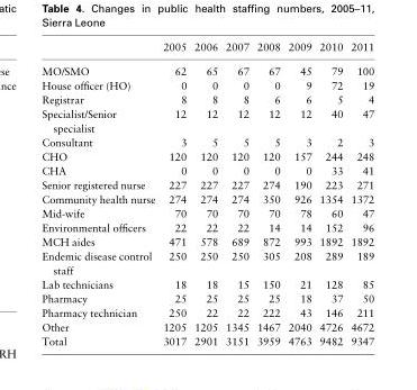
<table><thead><tr><td></td><td>2005</td><td>2006</td><td>2007</td><td>2008</td><td>2009</td><td>2010</td><td>2011</td></tr></thead><tbody><tr><td>MO/SMO</td><td>62</td><td>65</td><td>67</td><td>67</td><td>45</td><td>79</td><td>100</td></tr><tr><td>House officer (HO)</td><td>0</td><td>0</td><td>0</td><td>0</td><td>9</td><td>72</td><td>19</td></tr><tr><td>Registrar</td><td>8</td><td>8</td><td>8</td><td>6</td><td>6</td><td>5</td><td>4</td></tr><tr><td>Specialist/Senior specialist</td><td>12</td><td>12</td><td>12</td><td>12</td><td>12</td><td>40</td><td>47</td></tr><tr><td>Consultant</td><td>3</td><td>5</td><td>5</td><td>5</td><td>3</td><td>2</td><td>3</td></tr><tr><td>CHO</td><td>120</td><td>120</td><td>120</td><td>120</td><td>157</td><td>244</td><td>248</td></tr><tr><td>CHA</td><td>0</td><td>0</td><td>0</td><td>0</td><td>0</td><td>33</td><td>41</td></tr><tr><td>Senior registered nurse</td><td>227</td><td>227</td><td>227</td><td>274</td><td>190</td><td>223</td><td>271</td></tr><tr><td>Community health nurse</td><td>274</td><td>274</td><td>274</td><td>350</td><td>926</td><td>1354</td><td>1372</td></tr><tr><td>Mid-wife</td><td>70</td><td>70</td><td>70</td><td>70</td><td>78</td><td>60</td><td>47</td></tr><tr><td>Environmental officers</td><td>22</td><td>22</td><td>22</td><td>14</td><td>14</td><td>152</td><td>96</td></tr><tr><td>MCH aides</td><td>471</td><td>578</td><td>689</td><td>872</td><td>993</td><td>1892</td><td>1892</td></tr><tr><td>Endemic disease control staff</td><td>250</td><td>250</td><td>250</td><td>305</td><td>208</td><td>289</td><td>189</td></tr><tr><td>Lab technicians</td><td>18</td><td>18</td><td>15</td><td>150</td><td>21</td><td>128</td><td>85</td></tr><tr><td>Pharmacy</td><td>25</td><td>25</td><td>25</td><td>25</td><td>18</td><td>37</td><td>50</td></tr><tr><td>Pharmacy technician</td><td>250</td><td>22</td><td>22</td><td>222</td><td>43</td><td>146</td><td>211</td></tr><tr><td>Other</td><td>1205</td><td>1205</td><td>1345</td><td>1467</td><td>2040</td><td>4726</td><td>4672</td></tr><tr><td>Total</td><td>3017</td><td>2901</td><td>3151</td><td>3959</td><td>4763</td><td>9482</td><td>9347</td></tr></tbody></table>